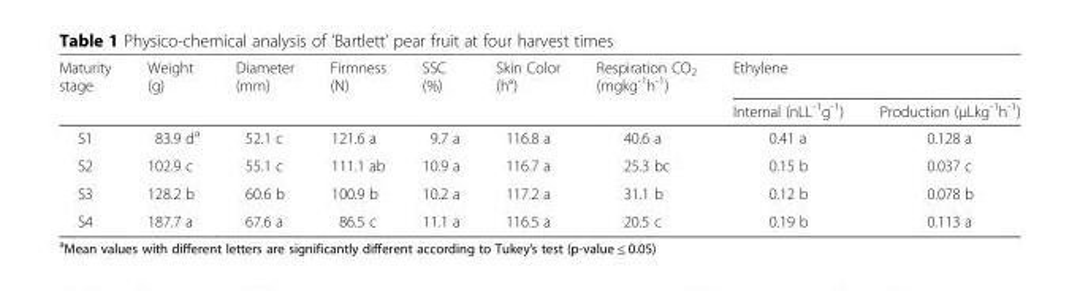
<table><thead><tr><td rowspan="2">Maturity stage</td><td rowspan="2">Weight (g)</td><td rowspan="2">Diameter (mm)</td><td rowspan="2">Firmness (N)</td><td rowspan="2">SSC (%)</td><td rowspan="2">Skin Color (h°)</td><td rowspan="2">Respiration CO<sub>2</sub> (mgkg<sup>-1</sup>h<sup>-1</sup>)</td><td colspan="2">Ethylene</td></tr><tr><td>Internal (nLL<sup>-1</sup>g<sup>-1</sup>)</td><td>Production (μLkg<sup>-1</sup>h<sup>-1</sup>)</td></tr></thead><tbody><tr><td>S1</td><td>83.9 d<sup>a</sup></td><td>52.1 c</td><td>121.6 a</td><td>9.7 a</td><td>116.8 a</td><td>40.6 a</td><td>0.41 a</td><td>0.128 a</td></tr><tr><td>S2</td><td>102.9 c</td><td>55.1 c</td><td>111.1 ab</td><td>10.9 a</td><td>116.7 a</td><td>25.3 bc</td><td>0.15 b</td><td>0.037 c</td></tr><tr><td>S3</td><td>128.2 b</td><td>60.6 b</td><td>100.9 b</td><td>10.2 a</td><td>117.2 a</td><td>31.1 b</td><td>0.12 b</td><td>0.078 b</td></tr><tr><td>S4</td><td>187.7 a</td><td>67.6 a</td><td>86.5 c</td><td>11.1 a</td><td>116.5 a</td><td>20.5 c</td><td>0.19 b</td><td>0.113 a</td></tr></tbody></table>